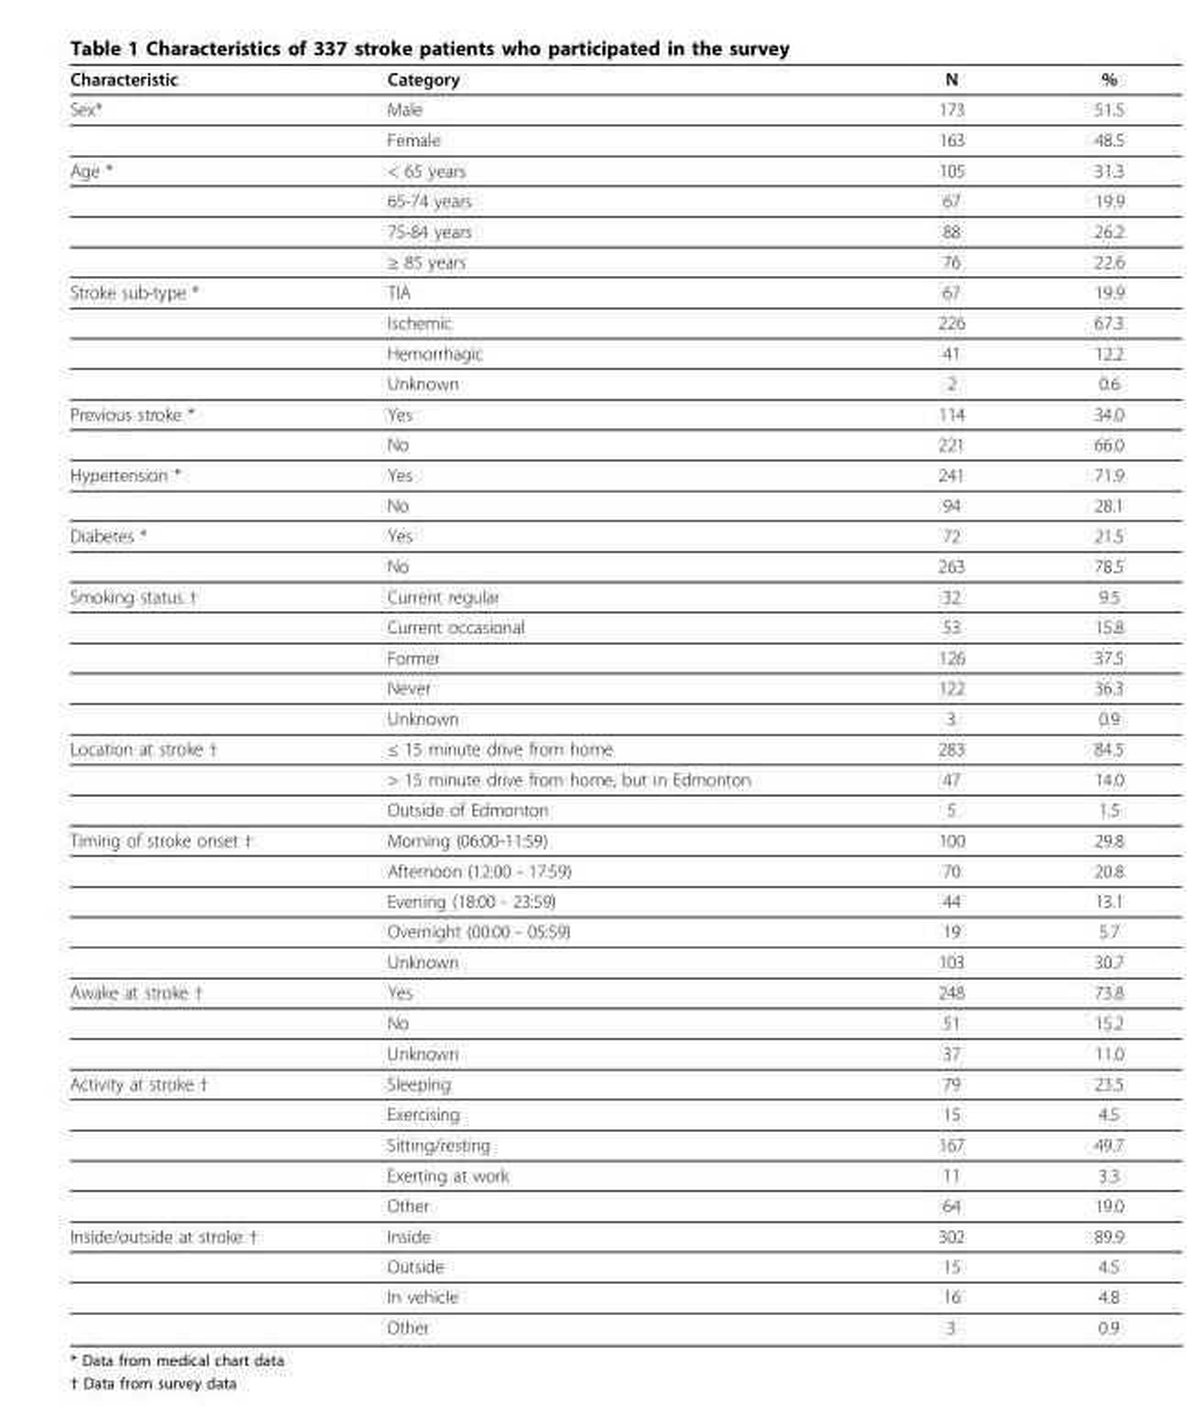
<table><thead><tr><td>Characteristic</td><td>Category</td><td>N</td><td>%</td></tr></thead><tbody><tr><td rowspan="2">Sex*</td><td>Male</td><td>173</td><td>51.5</td></tr><tr><td>Female</td><td>163</td><td>48.5</td></tr><tr><td rowspan="4">Age *</td><td>&lt; 65 years</td><td>105</td><td>31.3</td></tr><tr><td>65-74 years</td><td>67</td><td>19.9</td></tr><tr><td>75-84 years</td><td>88</td><td>26.2</td></tr><tr><td>≥ 85 years</td><td>76</td><td>22.6</td></tr><tr><td rowspan="4">Stroke sub-type *</td><td>TIA</td><td>67</td><td>19.9</td></tr><tr><td>Ischemic</td><td>226</td><td>67.3</td></tr><tr><td>Hemorrhagic</td><td>41</td><td>12.2</td></tr><tr><td>Unknown</td><td>2</td><td>0.6</td></tr><tr><td rowspan="2">Previous stroke *</td><td>Yes</td><td>114</td><td>34.0</td></tr><tr><td>No</td><td>221</td><td>66.0</td></tr><tr><td rowspan="2">Hypertension *</td><td>Yes</td><td>241</td><td>71.9</td></tr><tr><td>No</td><td>94</td><td>28.1</td></tr><tr><td rowspan="2">Diabetes *</td><td>Yes</td><td>72</td><td>21.5</td></tr><tr><td>No</td><td>263</td><td>78.5</td></tr><tr><td rowspan="5">Smoking status †</td><td>Current regular</td><td>32</td><td>9.5</td></tr><tr><td>Current occasional</td><td>53</td><td>15.8</td></tr><tr><td>Former</td><td>126</td><td>37.5</td></tr><tr><td>Never</td><td>122</td><td>36.3</td></tr><tr><td>Unknown</td><td>3</td><td>0.9</td></tr><tr><td rowspan="3">Location at stroke †</td><td>≤ 15 minute drive from home</td><td>283</td><td>84.5</td></tr><tr><td>&gt; 15 minute drive from home, but in Edmonton</td><td>47</td><td>14.0</td></tr><tr><td>Outside of Edmonton</td><td>5</td><td>1.5</td></tr><tr><td rowspan="5">Timing of stroke onset †</td><td>Morning (06:00-11:59)</td><td>100</td><td>29.8</td></tr><tr><td>Afternoon (12:00 - 17:59)</td><td>70</td><td>20.8</td></tr><tr><td>Evening (18:00 - 23:59)</td><td>44</td><td>13.1</td></tr><tr><td>Overnight (00:00 - 05:59)</td><td>19</td><td>5.7</td></tr><tr><td>Unknown</td><td>103</td><td>30.7</td></tr><tr><td rowspan="3">Awake at stroke †</td><td>Yes</td><td>248</td><td>73.8</td></tr><tr><td>No</td><td>51</td><td>15.2</td></tr><tr><td>Unknown</td><td>37</td><td>11.0</td></tr><tr><td rowspan="5">Activity at stroke †</td><td>Sleeping</td><td>79</td><td>23.5</td></tr><tr><td>Exercising</td><td>15</td><td>4.5</td></tr><tr><td>Sitting/resting</td><td>167</td><td>49.7</td></tr><tr><td>Exerting at work</td><td>11</td><td>3.3</td></tr><tr><td>Other</td><td>64</td><td>19.0</td></tr><tr><td rowspan="4">Inside/outside at stroke †</td><td>Inside</td><td>302</td><td>89.9</td></tr><tr><td>Outside</td><td>15</td><td>4.5</td></tr><tr><td>In vehicle</td><td>16</td><td>4.8</td></tr><tr><td>Other</td><td>3</td><td>0.9</td></tr></tbody></table>